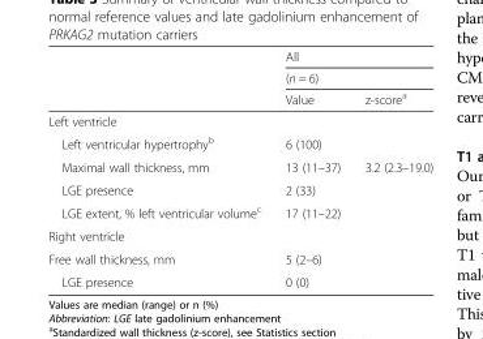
<table><thead><tr><td rowspan="3"></td><td rowspan="2" colspan="2">All (n = 6)</td></tr><tr></tr><tr><td>Value</td><td>z-score<sup>a</sup></td></tr></thead><tbody><tr><td colspan="3">Left ventricle</td></tr><tr><td>Left ventricular hypertrophy<sup>b</sup></td><td>6 (100)</td><td></td></tr><tr><td>Maximal wall thickness, mm</td><td>13 (11–37)</td><td>3.2 (2.3–19.0)</td></tr><tr><td>LGE presence</td><td>2 (33)</td><td></td></tr><tr><td>LGE extent, % left ventricular volume<sup>c</sup></td><td>17 (11–22)</td><td></td></tr><tr><td colspan="3">Right ventricle</td></tr><tr><td>Free wall thickness, mm</td><td>5 (2–6)</td><td></td></tr><tr><td>LGE presence</td><td>0 (0)</td><td></td></tr></tbody></table>